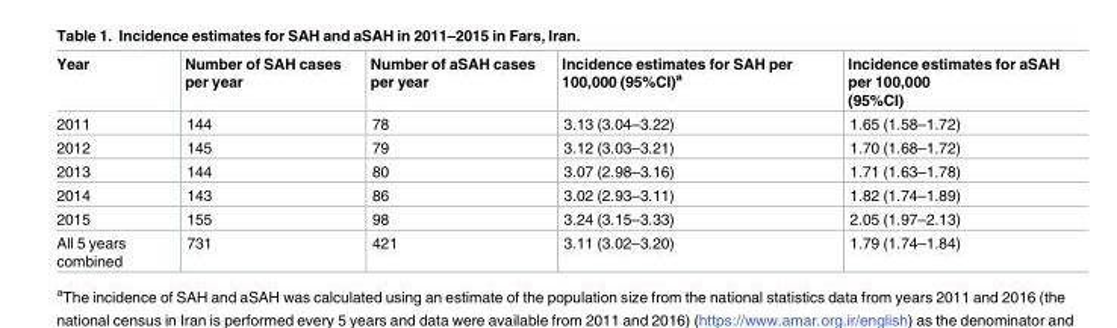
<table><thead><tr><td>Year</td><td>Number of SAH cases per year</td><td>Number of aSAH cases per year</td><td>Incidence estimates for SAH per 100,000 (95%CI)<sup>a</sup></td><td>Incidence estimates for aSAH per 100,000 (95%CI)</td></tr></thead><tbody><tr><td>2011</td><td>144</td><td>78</td><td>3.13 (3.04–3.22)</td><td>1.65 (1.58–1.72)</td></tr><tr><td>2012</td><td>145</td><td>79</td><td>3.12 (3.03–3.21)</td><td>1.70 (1.68–1.72)</td></tr><tr><td>2013</td><td>144</td><td>80</td><td>3.07 (2.98–3.16)</td><td>1.71 (1.63–1.78)</td></tr><tr><td>2014</td><td>143</td><td>86</td><td>3.02 (2.93–3.11)</td><td>1.82 (1.74–1.89)</td></tr><tr><td>2015</td><td>155</td><td>98</td><td>3.24 (3.15–3.33)</td><td>2.05 (1.97–2.13)</td></tr><tr><td>All 5 years combined</td><td>731</td><td>421</td><td>3.11 (3.02–3.20)</td><td>1.79 (1.74–1.84)</td></tr></tbody></table>